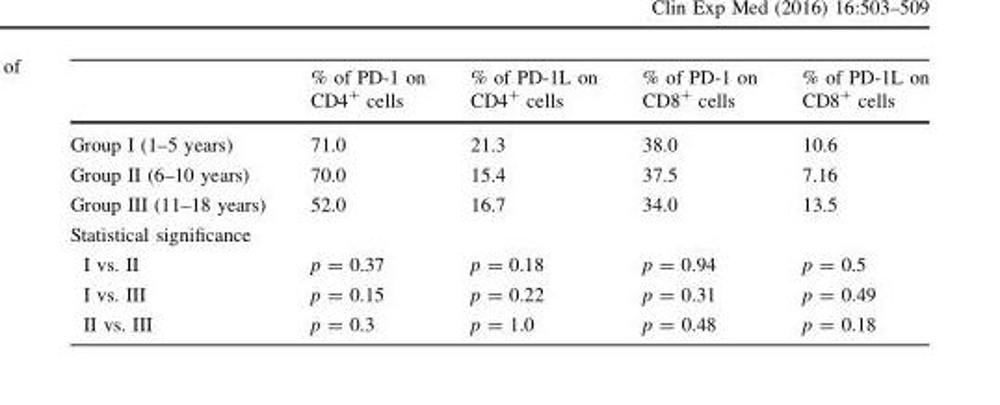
<table><thead><tr><td></td><td>% of PD-1 on CD4<sup>+</sup> cells</td><td>% of PD-1L on CD4<sup>+</sup> cells</td><td>% of PD-1 on CD8<sup>+</sup> cells</td><td>% of PD-1L on CD8<sup>+</sup> cells</td></tr></thead><tbody><tr><td>Group I (1–5 years)</td><td>71.0</td><td>21.3</td><td>38.0</td><td>10.6</td></tr><tr><td>Group II (6–10 years)</td><td>70.0</td><td>15.4</td><td>37.5</td><td>7.16</td></tr><tr><td>Group III (11–18 years)</td><td>52.0</td><td>16.7</td><td>34.0</td><td>13.5</td></tr><tr><td colspan="5">Statistical significance</td></tr><tr><td>I vs. II</td><td>p = 0.37</td><td>p = 0.18</td><td>p = 0.94</td><td>p = 0.5</td></tr><tr><td>I vs. III</td><td>p = 0.15</td><td>p = 0.22</td><td>p = 0.31</td><td>p = 0.49</td></tr><tr><td>II vs. III</td><td>p = 0.3</td><td>p = 1.0</td><td>p = 0.48</td><td>p = 0.18</td></tr></tbody></table>